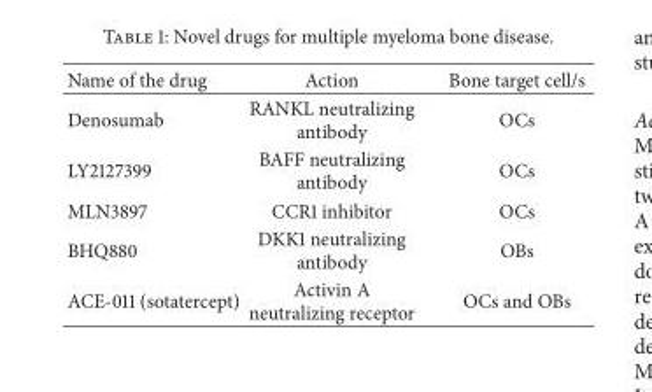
<table><thead><tr><td>Name of the drug</td><td>Action</td><td>Bone target cell/s</td></tr></thead><tbody><tr><td>Denosumab</td><td>RANKL neutralizing antibody</td><td>OCs</td></tr><tr><td>LY2127399</td><td>BAFF neutralizing antibody</td><td>OCs</td></tr><tr><td>MLN3897</td><td>CCR1 inhibitor</td><td>OCs</td></tr><tr><td>BHQ880</td><td>DKK1 neutralizing antibody</td><td>OBs</td></tr><tr><td>ACE-011 (sotatercept)</td><td>Activin A neutralizing receptor</td><td>OCs and OBs</td></tr></tbody></table>